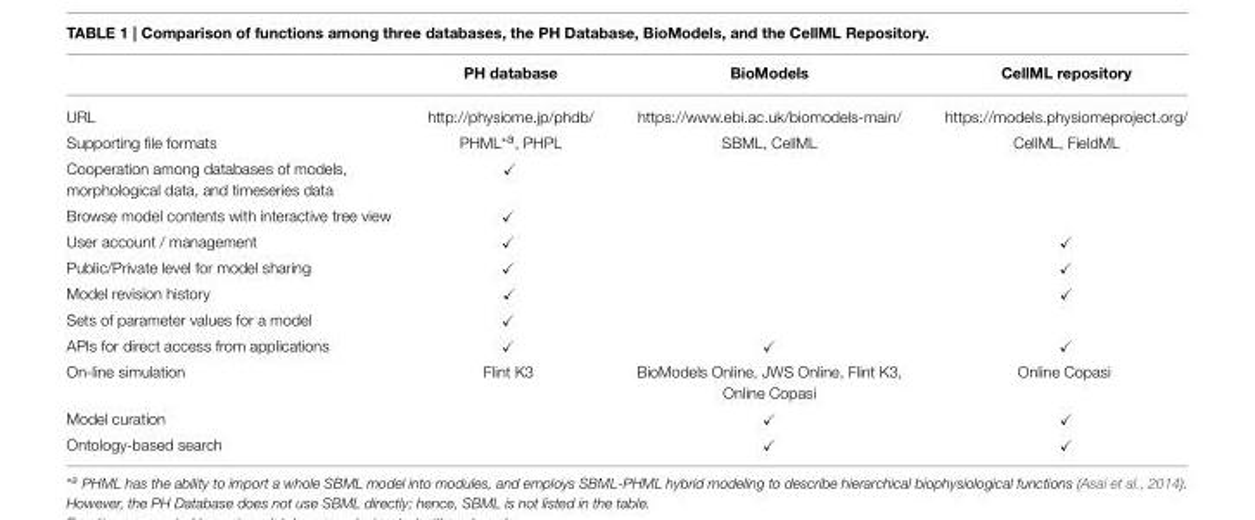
<table><thead><tr><td></td><td>PH database</td><td>BioModels</td><td>CellML repository</td></tr></thead><tbody><tr><td>URL</td><td>http://physiome.jp/phdb/</td><td>https://www.ebi.ac.uk/biomodels-main/</td><td>https://models.physiomeproject.org/</td></tr><tr><td>Supporting file formats</td><td>PHML<sup>*a</sup>, PHPL</td><td>SBML, CellML</td><td>CellML, FieldML</td></tr><tr><td>Cooperation among databases of models, morphological data, and timeseries data</td><td>✓</td><td></td><td></td></tr><tr><td>Browse model contents with interactive tree view</td><td>✓</td><td></td><td></td></tr><tr><td>User account / management</td><td>✓</td><td></td><td>✓</td></tr><tr><td>Public/Private level for model sharing</td><td>✓</td><td></td><td>✓</td></tr><tr><td>Model revision history</td><td>✓</td><td></td><td>✓</td></tr><tr><td>Sets of parameter values for a model</td><td>✓</td><td></td><td></td></tr><tr><td>APIs for direct access from applications</td><td>✓</td><td>✓</td><td>✓</td></tr><tr><td>On-line simulation</td><td>Flint K3</td><td>BioModels Online, JWS Online, Flint K3, Online Copasi</td><td>Online Copasi</td></tr><tr><td>Model curation</td><td></td><td>✓</td><td>✓</td></tr><tr><td>Ontology-based search</td><td></td><td>✓</td><td>✓</td></tr></tbody></table>